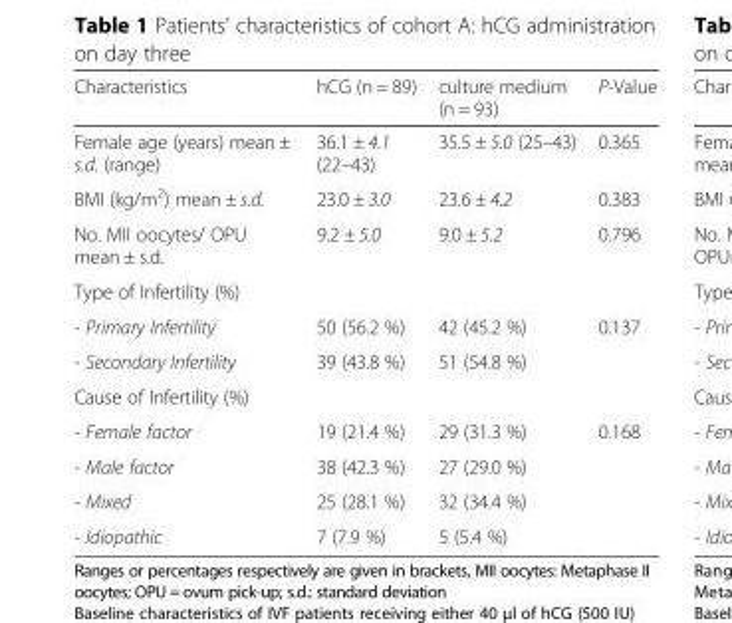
<table><thead><tr><td>Characteristics</td><td>hCG (n = 89)</td><td>culture medium (n = 93)</td><td>P-Value</td></tr></thead><tbody><tr><td>Female age (years) mean ± s.d. (range)</td><td>36.1 ± 4.1 (22–43)</td><td>35.5 ± 5.0 (25–43)</td><td>0.365</td></tr><tr><td>BMI (kg/m<sup>2</sup>) mean ± s.d.</td><td>23.0 ± 3.0</td><td>23.6 ± 4.2</td><td>0.383</td></tr><tr><td>No. MII oocytes/ OPU mean ± s.d.</td><td>9.2 ± 5.0</td><td>9.0 ± 5.2</td><td>0.796</td></tr><tr><td colspan="4">Type of Infertility (%)</td></tr><tr><td>- Primary Infertility</td><td>50 (56.2 %)</td><td>42 (45.2 %)</td><td rowspan="2">0.137</td></tr><tr><td>- Secondary Infertility</td><td>39 (43.8 %)</td><td>51 (54.8 %)</td></tr><tr><td colspan="4">Cause of Infertility (%)</td></tr><tr><td>- Female factor</td><td>19 (21.4 %)</td><td>29 (31.3 %)</td><td rowspan="4">0.168</td></tr><tr><td>- Male factor</td><td>38 (42.3 %)</td><td>27 (29.0 %)</td></tr><tr><td>- Mixed</td><td>25 (28.1 %)</td><td>32 (34.4 %)</td></tr><tr><td>- Idiopathic</td><td>7 (7.9 %)</td><td>5 (5.4 %)</td></tr></tbody></table>